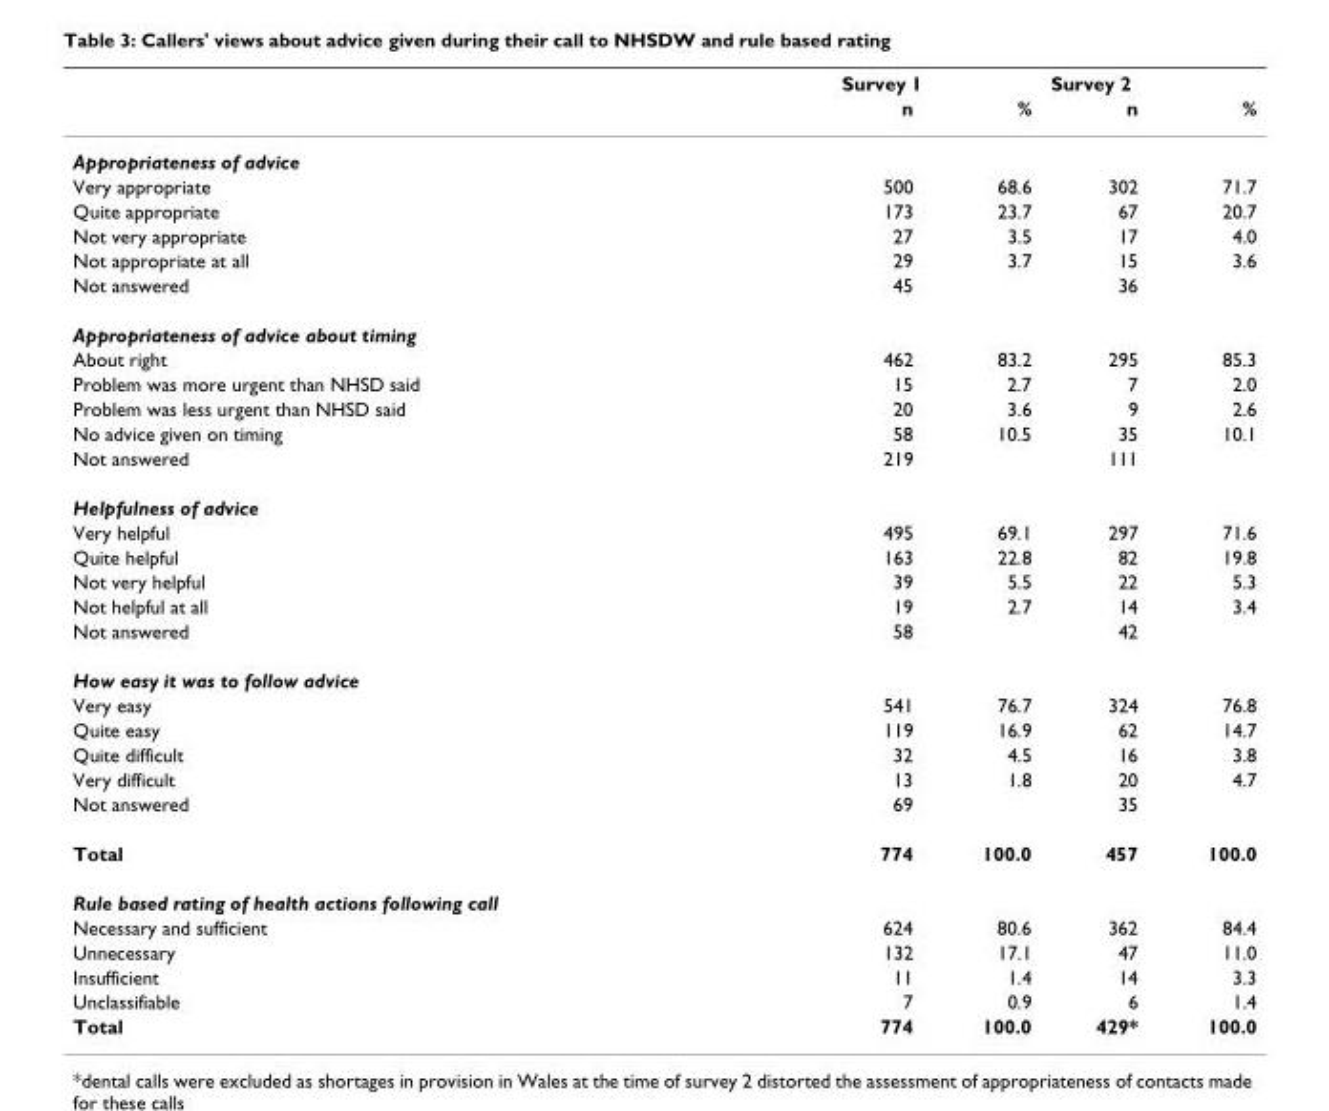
<table><thead><tr><td rowspan="2"></td><td colspan="2">Survey 1</td><td colspan="2">Survey 2</td></tr><tr><td>n</td><td>%</td><td>n</td><td>%</td></tr></thead><tbody><tr><td colspan="5">Appropriateness of advice</td></tr><tr><td>Very appropriate</td><td>500</td><td>68.6</td><td>302</td><td>71.7</td></tr><tr><td>Quite appropriate</td><td>173</td><td>23.7</td><td>67</td><td>20.7</td></tr><tr><td>Not very appropriate</td><td>27</td><td>3.5</td><td>17</td><td>4.0</td></tr><tr><td>Not appropriate at all</td><td>29</td><td>3.7</td><td>15</td><td>3.6</td></tr><tr><td>Not answered</td><td>45</td><td></td><td>36</td><td></td></tr><tr><td colspan="5">Appropriateness of advice about timing</td></tr><tr><td>About right</td><td>462</td><td>83.2</td><td>295</td><td>85.3</td></tr><tr><td>Problem was more urgent than NHSD said</td><td>15</td><td>2.7</td><td>7</td><td>2.0</td></tr><tr><td>Problem was less urgent than NHSD said</td><td>20</td><td>3.6</td><td>9</td><td>2.6</td></tr><tr><td>No advice given on timing</td><td>58</td><td>10.5</td><td>35</td><td>10.1</td></tr><tr><td>Not answered</td><td>219</td><td></td><td>111</td><td></td></tr><tr><td colspan="5">Helpfulness of advice</td></tr><tr><td>Very helpful</td><td>495</td><td>69.1</td><td>297</td><td>71.6</td></tr><tr><td>Quite helpful</td><td>163</td><td>22.8</td><td>82</td><td>19.8</td></tr><tr><td>Not very helpful</td><td>39</td><td>5.5</td><td>22</td><td>5.3</td></tr><tr><td>Not helpful at all</td><td>19</td><td>2.7</td><td>14</td><td>3.4</td></tr><tr><td>Not answered</td><td>58</td><td></td><td>42</td><td></td></tr><tr><td colspan="5">How easy it was to follow advice</td></tr><tr><td>Very easy</td><td>541</td><td>76.7</td><td>324</td><td>76.8</td></tr><tr><td>Quite easy</td><td>119</td><td>16.9</td><td>62</td><td>14.7</td></tr><tr><td>Quite difficult</td><td>32</td><td>4.5</td><td>16</td><td>3.8</td></tr><tr><td>Very difficult</td><td>13</td><td>1.8</td><td>20</td><td>4.7</td></tr><tr><td>Not answered</td><td>69</td><td></td><td>35</td><td></td></tr><tr><td>Total</td><td>774</td><td>100.0</td><td>457</td><td>100.0</td></tr><tr><td colspan="5">Rule based rating of health actions following call</td></tr><tr><td>Necessary and sufficient</td><td>624</td><td>80.6</td><td>362</td><td>84.4</td></tr><tr><td>Unnecessary</td><td>132</td><td>17.1</td><td>47</td><td>11.0</td></tr><tr><td>Insufficient</td><td>11</td><td>1.4</td><td>14</td><td>3.3</td></tr><tr><td>Unclassifiable</td><td>7</td><td>0.9</td><td>6</td><td>1.4</td></tr><tr><td>Total</td><td>774</td><td>100.0</td><td>429*</td><td>100.0</td></tr></tbody></table>